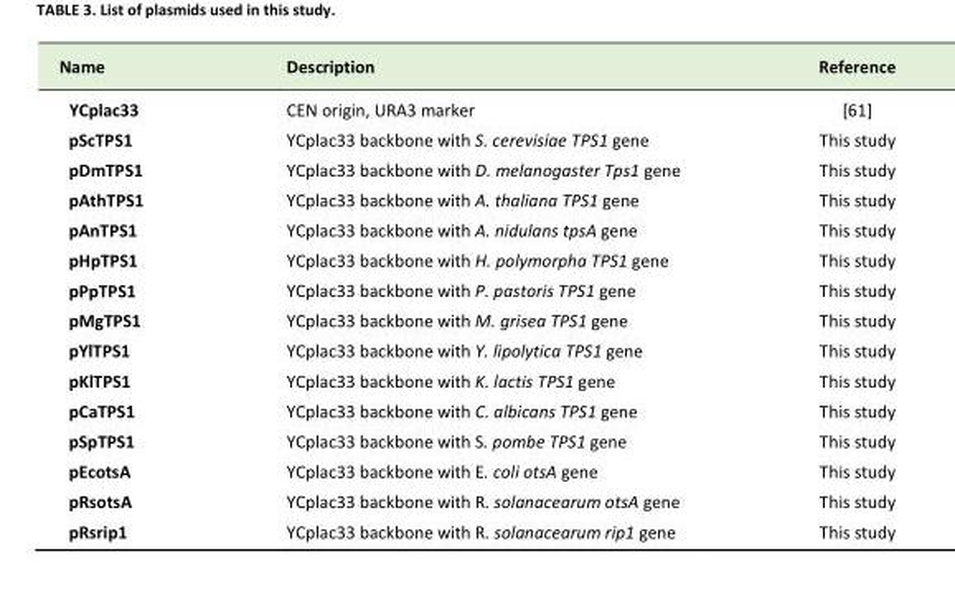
<table><thead><tr><td>Name</td><td>Description</td><td>Reference</td></tr></thead><tbody><tr><td>YCplac33</td><td>CEN origin, URA3 marker</td><td>[61]</td></tr><tr><td>pScTPS1</td><td>YCplac33 backbone with S. cerevisiae TPS1 gene</td><td>This study</td></tr><tr><td>pDmTPS1</td><td>YCplac33 backbone with D. melanogaster Tps1 gene</td><td>This study</td></tr><tr><td>pAthTPS1</td><td>YCplac33 backbone with A. thaliana TPS1 gene</td><td>This study</td></tr><tr><td>pAnTPS1</td><td>YCplac33 backbone with A. nidulans tpsA gene</td><td>This study</td></tr><tr><td>pHpTPS1</td><td>YCplac33 backbone with H. polymorpha TPS1 gene</td><td>This study</td></tr><tr><td>pPpTPS1</td><td>YCplac33 backbone with P. pastoris TPS1 gene</td><td>This study</td></tr><tr><td>pMgTPS1</td><td>YCplac33 backbone with M. grisea TPS1 gene</td><td>This study</td></tr><tr><td>pYlTPS1</td><td>YCplac33 backbone with Y. lipolytica TPS1 gene</td><td>This study</td></tr><tr><td>pKlTPS1</td><td>YCplac33 backbone with K. lactis TPS1 gene</td><td>This study</td></tr><tr><td>pCaTPS1</td><td>YCplac33 backbone with C. albicans TPS1 gene</td><td>This study</td></tr><tr><td>pSpTPS1</td><td>YCplac33 backbone with S. pombe TPS1 gene</td><td>This study</td></tr><tr><td>pEcotsA</td><td>YCplac33 backbone with E. coli otsA gene</td><td>This study</td></tr><tr><td>pRsotsA</td><td>YCplac33 backbone with R. solanacearum otsA gene</td><td>This study</td></tr><tr><td>pRsrip1</td><td>YCplac33 backbone with R. solanacearum rip1 gene</td><td>This study</td></tr></tbody></table>